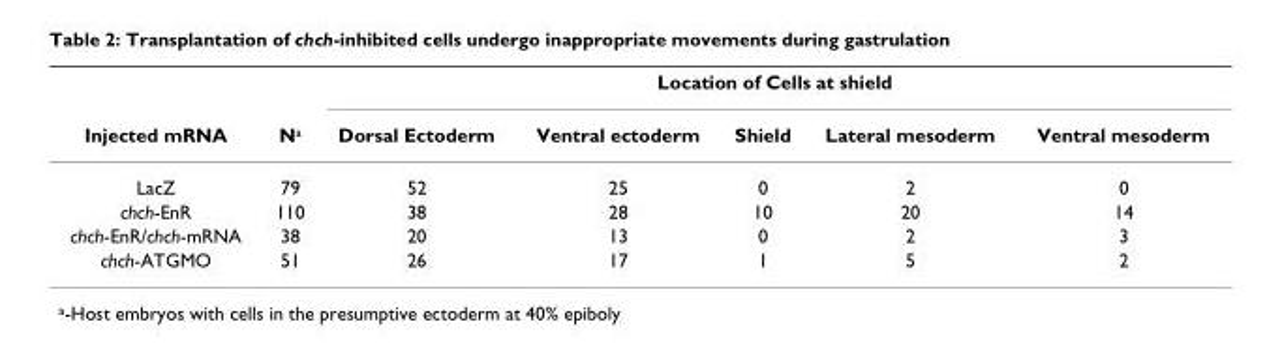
<table><thead><tr><td rowspan="2">Injected mRNA</td><td rowspan="2">N<sup>a</sup></td><td colspan="5">Location of Cells at shield</td></tr><tr><td>Dorsal Ectoderm</td><td>Ventral ectoderm</td><td>Shield</td><td>Lateral mesoderm</td><td>Ventral mesoderm</td></tr></thead><tbody><tr><td>LacZ</td><td>79</td><td>52</td><td>25</td><td>0</td><td>2</td><td>0</td></tr><tr><td>chch-EnR</td><td>110</td><td>38</td><td>28</td><td>10</td><td>20</td><td>14</td></tr><tr><td>chch-EnR/chch-mRNA</td><td>38</td><td>20</td><td>13</td><td>0</td><td>2</td><td>3</td></tr><tr><td>chch-ATGMO</td><td>51</td><td>26</td><td>17</td><td>1</td><td>5</td><td>2</td></tr></tbody></table>